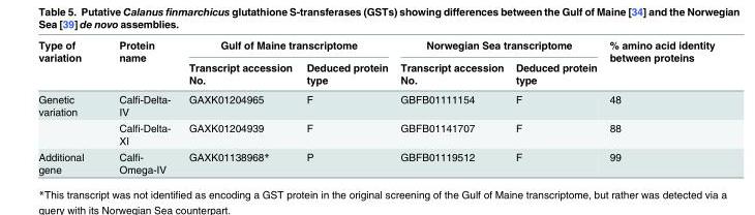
<table><thead><tr><td rowspan="2">Type of variation</td><td rowspan="2">Protein name</td><td colspan="2">Gulf of Maine transcriptome</td><td colspan="2">Norwegian Sea transcriptome</td><td rowspan="2">% amino acid identity between proteins</td></tr><tr><td>Transcript accession No.</td><td>Deduced protein type</td><td>Transcript accession No.</td><td>Deduced protein type</td></tr></thead><tbody><tr><td rowspan="2">Genetic variation</td><td>Calfi-Delta- IV</td><td>GAXK01204965</td><td>F</td><td>GBFB01111154</td><td>F</td><td>48</td></tr><tr><td>Calfi-Delta- XI</td><td>GAXK01204939</td><td>F</td><td>GBFB01141707</td><td>F</td><td>88</td></tr><tr><td>Additional gene</td><td>Calfi- Omega-IV</td><td>GAXK01138968*</td><td>P</td><td>GBFB01119512</td><td>F</td><td>99</td></tr></tbody></table>